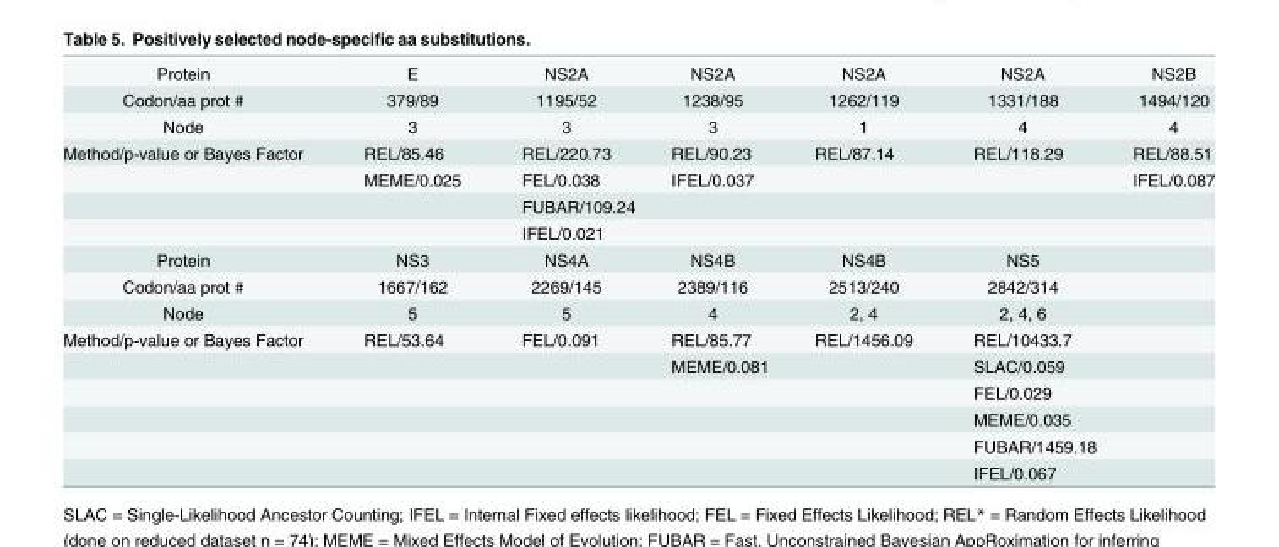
<table><tbody><tr><td>Protein</td><td>E</td><td>NS2A</td><td>NS2A</td><td>NS2A</td><td>NS2A</td><td>NS2B</td></tr><tr><td>Codon/aa prot #</td><td>379/89</td><td>1195/52</td><td>1238/95</td><td>1262/119</td><td>1331/188</td><td>1494/120</td></tr><tr><td>Node</td><td>3</td><td>3</td><td>3</td><td>1</td><td>4</td><td>4</td></tr><tr><td rowspan="4">Method/p-value or Bayes Factor</td><td>REL/85.46</td><td>REL/220.73</td><td>REL/90.23</td><td>REL/87.14</td><td>REL/118.29</td><td>REL/88.51</td></tr><tr><td>MEME/0.025</td><td>FEL/0.038</td><td>IFEL/0.037</td><td></td><td></td><td>IFEL/0.087</td></tr><tr><td></td><td colspan="2">FUBAR/109.24</td><td></td><td></td><td></td></tr><tr><td></td><td>IFEL/0.021</td><td></td><td></td><td></td><td></td></tr><tr><td>Protein</td><td>NS3</td><td>NS4A</td><td>NS4B</td><td>NS4B</td><td>NS5</td><td></td></tr><tr><td>Codon/aa prot #</td><td>1667/162</td><td>2269/145</td><td>2389/116</td><td>2513/240</td><td>2842/314</td><td></td></tr><tr><td>Node</td><td>5</td><td>5</td><td>4</td><td>2, 4</td><td>2, 4, 6</td><td></td></tr><tr><td rowspan="6">Method/p-value or Bayes Factor</td><td>REL/53.64</td><td>FEL/0.091</td><td>REL/85.77</td><td>REL/1456.09</td><td>REL/10433.7</td><td></td></tr><tr><td></td><td></td><td colspan="2">MEME/0.081</td><td>SLAC/0.059</td><td></td></tr><tr><td></td><td></td><td></td><td></td><td>FEL/0.029</td><td></td></tr><tr><td></td><td></td><td></td><td></td><td>MEME/0.035</td><td></td></tr><tr><td></td><td></td><td></td><td></td><td colspan="2">FUBAR/1459.18</td></tr><tr><td></td><td></td><td></td><td></td><td>IFEL/0.067</td><td></td></tr></tbody></table>